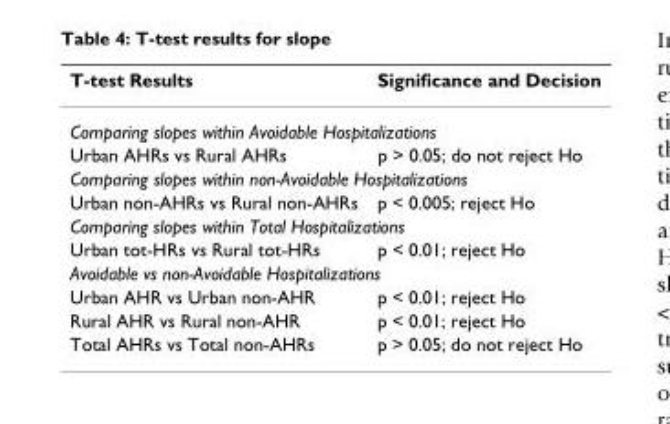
<table><thead><tr><td>T-test Results</td><td>Significance and Decision</td></tr></thead><tbody><tr><td colspan="2">Comparing slopes within Avoidable Hospitalizations</td></tr><tr><td>Urban AHRs vs Rural AHRs</td><td>p &gt; 0.05; do not reject Ho</td></tr><tr><td colspan="2">Comparing slopes within non-Avoidable Hospitalizations</td></tr><tr><td>Urban non-AHRs vs Rural non-AHRs</td><td>p &lt; 0.005; reject Ho</td></tr><tr><td colspan="2">Comparing slopes within Total Hospitalizations</td></tr><tr><td>Urban tot-HRs vs Rural tot-HRs</td><td>p &lt; 0.01; reject Ho</td></tr><tr><td colspan="2">Avoidable vs non-Avoidable Hospitalizations</td></tr><tr><td>Urban AHR vs Urban non-AHR</td><td>p &lt; 0.01; reject Ho</td></tr><tr><td>Rural AHR vs Rural non-AHR</td><td>p &lt; 0.01; reject Ho</td></tr><tr><td>Total AHRs vs Total non-AHRs</td><td>p &gt; 0.05; do not reject Ho</td></tr></tbody></table>